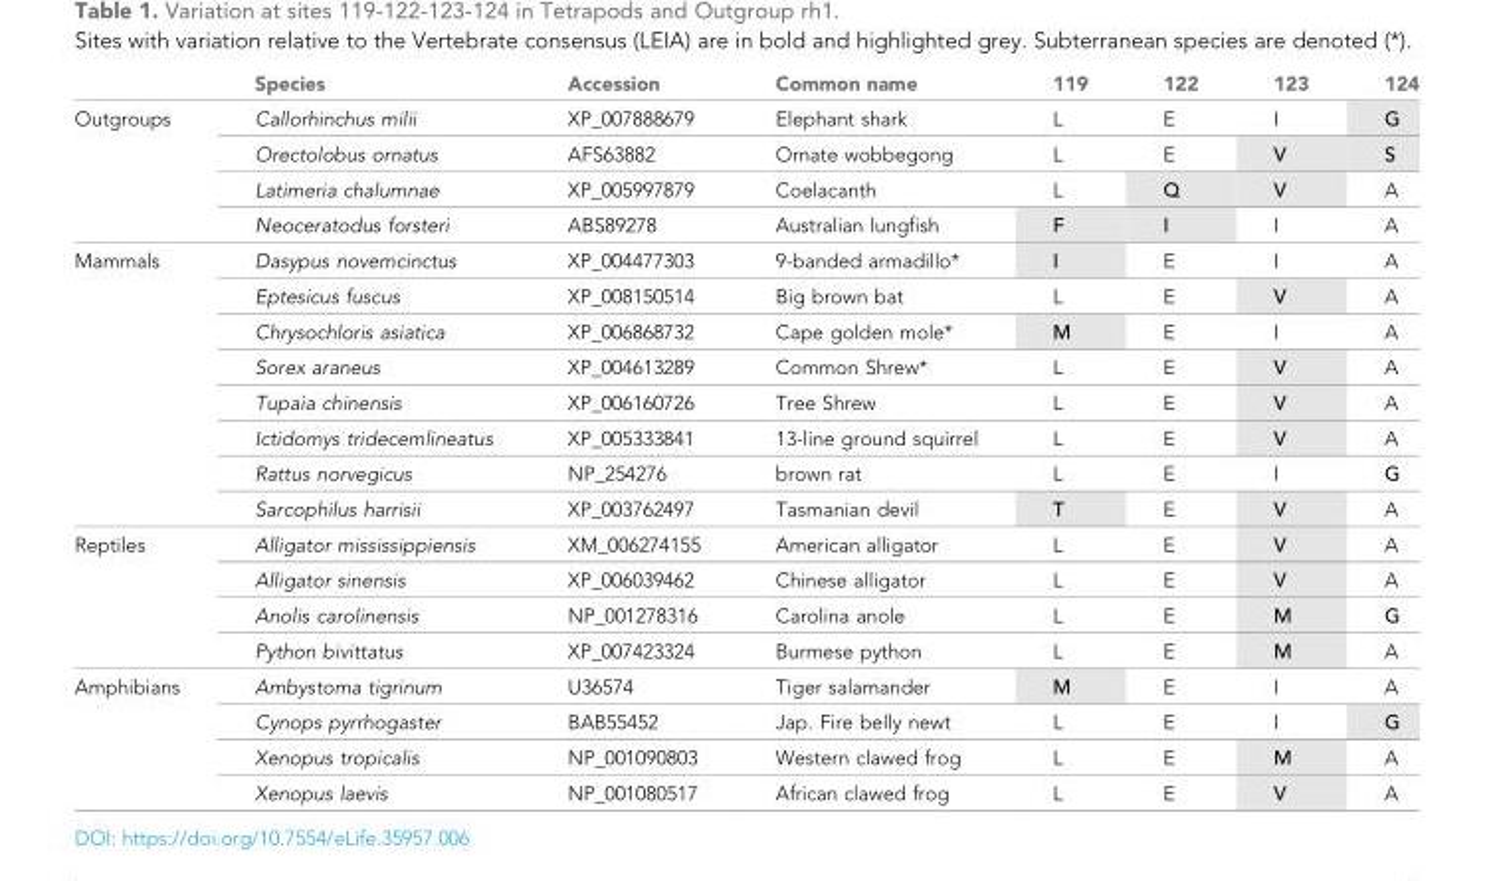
<table><thead><tr><td></td><td>Species</td><td>Accession</td><td>Common name</td><td>119</td><td>122</td><td>123</td><td>124</td></tr></thead><tbody><tr><td rowspan="4">Outgroups</td><td>Callorhinchus milii</td><td>XP_007888679</td><td>Elephant shark</td><td>L</td><td>E</td><td>I</td><td>G</td></tr><tr><td>Orectolobus ornatus</td><td>AFS63882</td><td>Ornate wobbegong</td><td>L</td><td>E</td><td>V</td><td>S</td></tr><tr><td>Latimeria chalumnae</td><td>XP_005997879</td><td>Coelacanth</td><td>L</td><td>Q</td><td>V</td><td>A</td></tr><tr><td>Neoceratodus forsteri</td><td>ABS89278</td><td>Australian lungfish</td><td>F</td><td>I</td><td>I</td><td>A</td></tr><tr><td rowspan="8">Mammals</td><td>Dasypus novemcinctus</td><td>XP_004477303</td><td>9-banded armadillo*</td><td>I</td><td>E</td><td>I</td><td>A</td></tr><tr><td>Eptesicus fuscus</td><td>XP_008150514</td><td>Big brown bat</td><td>L</td><td>E</td><td>V</td><td>A</td></tr><tr><td>Chrysochloris asiatica</td><td>XP_006868732</td><td>Cape golden mole*</td><td>M</td><td>E</td><td>I</td><td>A</td></tr><tr><td>Sorex araneus</td><td>XP_004613289</td><td>Common Shrew*</td><td>L</td><td>E</td><td>V</td><td>A</td></tr><tr><td>Tupaia chinensis</td><td>XP_006160726</td><td>Tree Shrew</td><td>L</td><td>E</td><td>V</td><td>A</td></tr><tr><td>Ictidomys tridecemlineatus</td><td>XP_005333841</td><td>13-line ground squirrel</td><td>L</td><td>E</td><td>V</td><td>A</td></tr><tr><td>Rattus norvegicus</td><td>NP_254276</td><td>brown rat</td><td>L</td><td>E</td><td>I</td><td>G</td></tr><tr><td>Sarcophilus harrisii</td><td>XP_003762497</td><td>Tasmanian devil</td><td>T</td><td>E</td><td>V</td><td>A</td></tr><tr><td rowspan="4">Reptiles</td><td>Alligator mississippiensis</td><td>XM_006274155</td><td>American alligator</td><td>L</td><td>E</td><td>V</td><td>A</td></tr><tr><td>Alligator sinensis</td><td>XP_006039462</td><td>Chinese alligator</td><td>L</td><td>E</td><td>V</td><td>A</td></tr><tr><td>Anolis carolinensis</td><td>NP_001278316</td><td>Carolina anole</td><td>L</td><td>E</td><td>M</td><td>G</td></tr><tr><td>Python bivittatus</td><td>XP_007423324</td><td>Burmese python</td><td>L</td><td>E</td><td>M</td><td>A</td></tr><tr><td rowspan="4">Amphibians</td><td>Ambystoma tigrinum</td><td>U36574</td><td>Tiger salamander</td><td>M</td><td>E</td><td>I</td><td>A</td></tr><tr><td>Cynops pyrrhogaster</td><td>BAB55452</td><td>Jap. Fire belly newt</td><td>L</td><td>E</td><td>I</td><td>G</td></tr><tr><td>Xenopus tropicalis</td><td>NP_001090803</td><td>Western clawed frog</td><td>L</td><td>E</td><td>M</td><td>A</td></tr><tr><td>Xenopus laevis</td><td>NP_001080517</td><td>African clawed frog</td><td>L</td><td>E</td><td>V</td><td>A</td></tr></tbody></table>